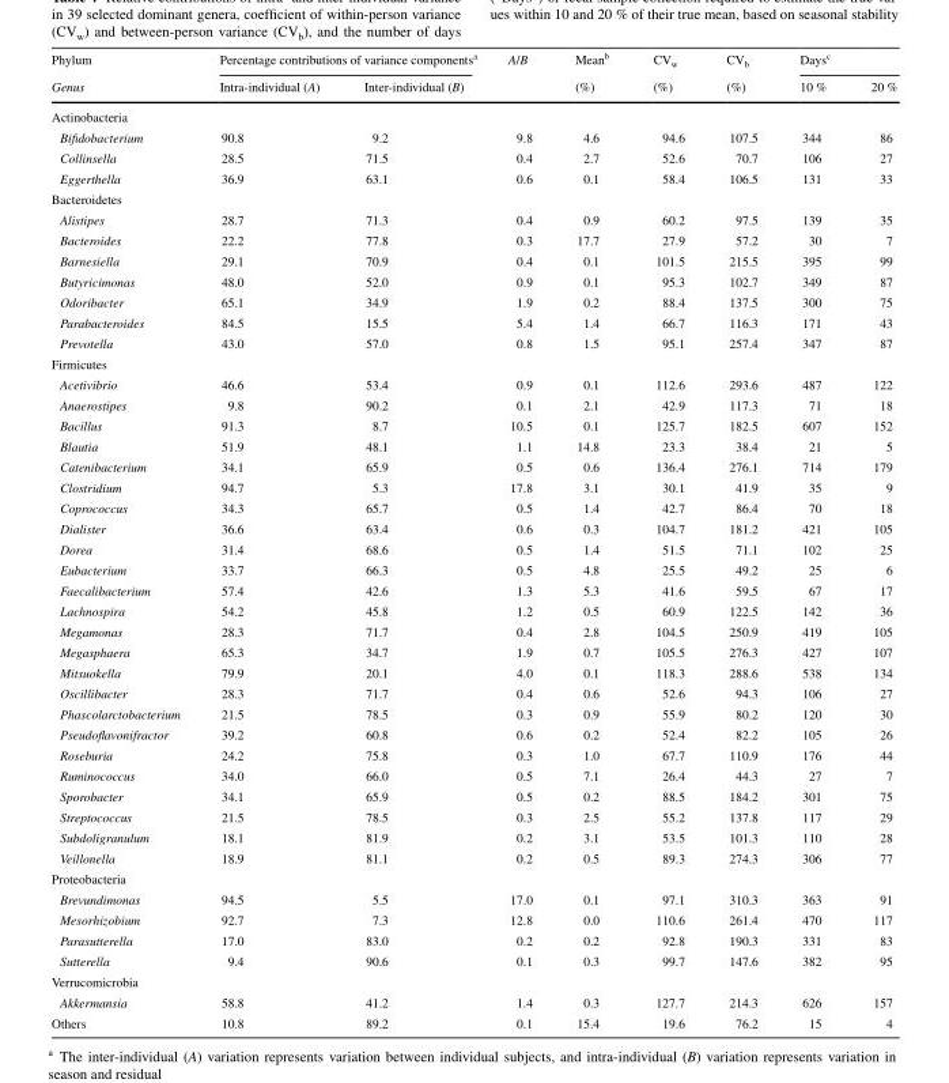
<table><thead><tr><td rowspan="2">Phylum Genus</td><td colspan="2">Percentage contributions of variance components<sup>a</sup></td><td rowspan="2">A/B</td><td rowspan="2">Mean<sup>b</sup> (%)</td><td rowspan="2">CV<sub>w</sub> (%)</td><td rowspan="2">CV<sub>b</sub> (%)</td><td colspan="2">Days<sup>c</sup></td></tr><tr><td>Intra-individual (A)</td><td>Inter-individual (B)</td><td>10 %</td><td>20 %</td></tr></thead><tbody><tr><td colspan="9">Actinobacteria</td></tr><tr><td>Bifidobacterium</td><td>90.8</td><td>9.2</td><td>9.8</td><td>4.6</td><td>94.6</td><td>107.5</td><td>344</td><td>86</td></tr><tr><td>Collinsella</td><td>28.5</td><td>71.5</td><td>0.4</td><td>2.7</td><td>52.6</td><td>70.7</td><td>106</td><td>27</td></tr><tr><td>Eggerthella</td><td>36.9</td><td>63.1</td><td>0.6</td><td>0.1</td><td>58.4</td><td>106.5</td><td>131</td><td>33</td></tr><tr><td colspan="9">Bacteroidetes</td></tr><tr><td>Alistipes</td><td>28.7</td><td>71.3</td><td>0.4</td><td>0.9</td><td>60.2</td><td>97.5</td><td>139</td><td>35</td></tr><tr><td>Bacteroides</td><td>22.2</td><td>77.8</td><td>0.3</td><td>17.7</td><td>27.9</td><td>57.2</td><td>30</td><td>7</td></tr><tr><td>Barnesiella</td><td>29.1</td><td>70.9</td><td>0.4</td><td>0.1</td><td>101.5</td><td>215.5</td><td>395</td><td>99</td></tr><tr><td>Butyricimonas</td><td>48.0</td><td>52.0</td><td>0.9</td><td>0.1</td><td>95.3</td><td>102.7</td><td>349</td><td>87</td></tr><tr><td>Odoribacter</td><td>65.1</td><td>34.9</td><td>1.9</td><td>0.2</td><td>88.4</td><td>137.5</td><td>300</td><td>75</td></tr><tr><td>Parabacteroides</td><td>84.5</td><td>15.5</td><td>5.4</td><td>1.4</td><td>66.7</td><td>116.3</td><td>171</td><td>43</td></tr><tr><td>Prevotella</td><td>43.0</td><td>57.0</td><td>0.8</td><td>1.5</td><td>95.1</td><td>257.4</td><td>347</td><td>87</td></tr><tr><td colspan="9">Firmicutes</td></tr><tr><td>Acetivibrio</td><td>46.6</td><td>53.4</td><td>0.9</td><td>0.1</td><td>112.6</td><td>293.6</td><td>487</td><td>122</td></tr><tr><td>Anaerostipes</td><td>9.8</td><td>90.2</td><td>0.1</td><td>2.1</td><td>42.9</td><td>117.3</td><td>71</td><td>18</td></tr><tr><td>Bacillus</td><td>91.3</td><td>8.7</td><td>10.5</td><td>0.1</td><td>125.7</td><td>182.5</td><td>607</td><td>152</td></tr><tr><td>Blautia</td><td>51.9</td><td>48.1</td><td>1.1</td><td>14.8</td><td>23.3</td><td>38.4</td><td>21</td><td>5</td></tr><tr><td>Catenibacterium</td><td>34.1</td><td>65.9</td><td>0.5</td><td>0.6</td><td>136.4</td><td>276.1</td><td>714</td><td>179</td></tr><tr><td>Clostridium</td><td>94.7</td><td>5.3</td><td>17.8</td><td>3.1</td><td>30.1</td><td>41.9</td><td>35</td><td>9</td></tr><tr><td>Coprococcus</td><td>34.3</td><td>65.7</td><td>0.5</td><td>1.4</td><td>42.7</td><td>86.4</td><td>70</td><td>18</td></tr><tr><td>Dialister</td><td>36.6</td><td>63.4</td><td>0.6</td><td>0.3</td><td>104.7</td><td>181.2</td><td>421</td><td>105</td></tr><tr><td>Dorea</td><td>31.4</td><td>68.6</td><td>0.5</td><td>1.4</td><td>51.5</td><td>71.1</td><td>102</td><td>25</td></tr><tr><td>Eubacterium</td><td>33.7</td><td>66.3</td><td>0.5</td><td>4.8</td><td>25.5</td><td>49.2</td><td>25</td><td>6</td></tr><tr><td>Faecalibacterium</td><td>57.4</td><td>42.6</td><td>1.3</td><td>5.3</td><td>41.6</td><td>59.5</td><td>67</td><td>17</td></tr><tr><td>Lachnospira</td><td>54.2</td><td>45.8</td><td>1.2</td><td>0.5</td><td>60.9</td><td>122.5</td><td>142</td><td>36</td></tr><tr><td>Megamonas</td><td>28.3</td><td>71.7</td><td>0.4</td><td>2.8</td><td>104.5</td><td>250.9</td><td>419</td><td>105</td></tr><tr><td>Megasphaera</td><td>65.3</td><td>34.7</td><td>1.9</td><td>0.7</td><td>105.5</td><td>276.3</td><td>427</td><td>107</td></tr><tr><td>Mitsuokella</td><td>79.9</td><td>20.1</td><td>4.0</td><td>0.1</td><td>118.3</td><td>288.6</td><td>538</td><td>134</td></tr><tr><td>Oscillibacter</td><td>28.3</td><td>71.7</td><td>0.4</td><td>0.6</td><td>52.6</td><td>94.3</td><td>106</td><td>27</td></tr><tr><td>Phascolarctobacterium</td><td>21.5</td><td>78.5</td><td>0.3</td><td>0.9</td><td>55.9</td><td>80.2</td><td>120</td><td>30</td></tr><tr><td>Pseudoflavonifractor</td><td>39.2</td><td>60.8</td><td>0.6</td><td>0.2</td><td>52.4</td><td>82.2</td><td>105</td><td>26</td></tr><tr><td>Roseburia</td><td>24.2</td><td>75.8</td><td>0.3</td><td>1.0</td><td>67.7</td><td>110.9</td><td>176</td><td>44</td></tr><tr><td>Ruminococcus</td><td>34.0</td><td>66.0</td><td>0.5</td><td>7.1</td><td>26.4</td><td>44.3</td><td>27</td><td>7</td></tr><tr><td>Sporobacter</td><td>34.1</td><td>65.9</td><td>0.5</td><td>0.2</td><td>88.5</td><td>184.2</td><td>301</td><td>75</td></tr><tr><td>Streptococcus</td><td>21.5</td><td>78.5</td><td>0.3</td><td>2.5</td><td>55.2</td><td>137.8</td><td>117</td><td>29</td></tr><tr><td>Subdoligranulum</td><td>18.1</td><td>81.9</td><td>0.2</td><td>3.1</td><td>53.5</td><td>101.3</td><td>110</td><td>28</td></tr><tr><td>Veillonella</td><td>18.9</td><td>81.1</td><td>0.2</td><td>0.5</td><td>89.3</td><td>274.3</td><td>306</td><td>77</td></tr><tr><td colspan="9">Proteobacteria</td></tr><tr><td>Brevundimonas</td><td>94.5</td><td>5.5</td><td>17.0</td><td>0.1</td><td>97.1</td><td>310.3</td><td>363</td><td>91</td></tr><tr><td>Mesorhizobium</td><td>92.7</td><td>7.3</td><td>12.8</td><td>0.0</td><td>110.6</td><td>261.4</td><td>470</td><td>117</td></tr><tr><td>Parasutterella</td><td>17.0</td><td>83.0</td><td>0.2</td><td>0.2</td><td>92.8</td><td>190.3</td><td>331</td><td>83</td></tr><tr><td>Sutterella</td><td>9.4</td><td>90.6</td><td>0.1</td><td>0.3</td><td>99.7</td><td>147.6</td><td>382</td><td>95</td></tr><tr><td colspan="9">Verrucomicrobia</td></tr><tr><td>Akkermansia</td><td>58.8</td><td>41.2</td><td>1.4</td><td>0.3</td><td>127.7</td><td>214.3</td><td>626</td><td>157</td></tr><tr><td>Others</td><td>10.8</td><td>89.2</td><td>0.1</td><td>15.4</td><td>19.6</td><td>76.2</td><td>15</td><td>4</td></tr></tbody></table>